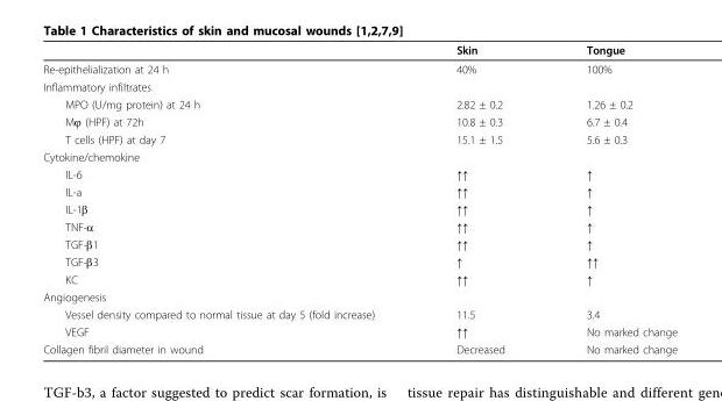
<table><thead><tr><td></td><td>Skin</td><td>Tongue</td></tr></thead><tbody><tr><td>Re-epithelialization at 24 h</td><td>40%</td><td>100%</td></tr><tr><td colspan="3">Inflammatory infiltrates</td></tr><tr><td>MPO (U/mg protein) at 24 h</td><td>2.82 ± 0.2</td><td>1.26 ± 0.2</td></tr><tr><td>Mϕ (HPF) at 72h</td><td>10.8 ± 0.3</td><td>6.7 ± 0.4</td></tr><tr><td>T cells (HPF) at day 7</td><td>15.1 ± 1.5</td><td>5.6 ± 0.3</td></tr><tr><td colspan="3">Cytokine/chemokine</td></tr><tr><td>IL-6</td><td>↑↑</td><td>↑</td></tr><tr><td>IL-a</td><td>↑↑</td><td>↑</td></tr><tr><td>IL-1β</td><td>↑↑</td><td>↑</td></tr><tr><td>TNF-α</td><td>↑↑</td><td>↑</td></tr><tr><td>TGF-β1</td><td>↑↑</td><td>↑</td></tr><tr><td>TGF-β3</td><td>↑</td><td>↑↑</td></tr><tr><td>KC</td><td>↑↑</td><td>↑</td></tr><tr><td colspan="3">Angiogenesis</td></tr><tr><td>Vessel density compared to normal tissue at day 5 (fold increase)</td><td>11.5</td><td>3.4</td></tr><tr><td>VEGF</td><td>↑↑</td><td>No marked change</td></tr><tr><td>Collagen fibril diameter in wound</td><td>Decreased</td><td>No marked change</td></tr></tbody></table>